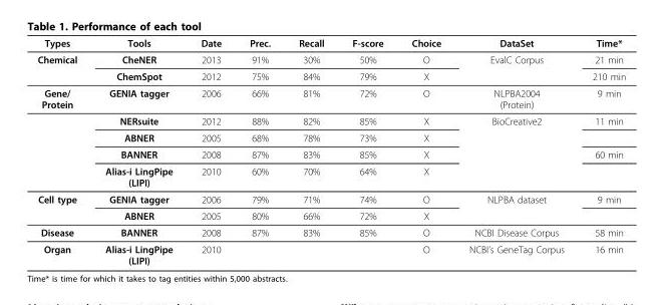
<table><thead><tr><td>Types</td><td>Tools</td><td>Date</td><td>Prec.</td><td>Recall</td><td>F-score</td><td>Choice</td><td>DataSet</td><td>Time*</td></tr></thead><tbody><tr><td rowspan="2">Chemical</td><td>CheNER</td><td>2013</td><td>91%</td><td>30%</td><td>50%</td><td>O</td><td>EvalC Corpus</td><td>21 min</td></tr><tr><td>ChemSpot</td><td>2012</td><td>75%</td><td>84%</td><td>79%</td><td>X</td><td></td><td>210 min</td></tr><tr><td rowspan="5">Gene/ Protein</td><td>GENIA tagger</td><td>2006</td><td>66%</td><td>81%</td><td>72%</td><td>O</td><td>NLPBA2004 (Protein)</td><td>9 min</td></tr><tr><td>NERsuite</td><td>2012</td><td>88%</td><td>82%</td><td>85%</td><td>X</td><td>BioCreative2</td><td>11 min</td></tr><tr><td>ABNER</td><td>2005</td><td>68%</td><td>78%</td><td>73%</td><td>X</td><td></td><td></td></tr><tr><td>BANNER</td><td>2008</td><td>87%</td><td>83%</td><td>85%</td><td>X</td><td></td><td>60 min</td></tr><tr><td>Alias-i LingPipe (LIPI)</td><td>2010</td><td>60%</td><td>70%</td><td>64%</td><td>X</td><td></td><td></td></tr><tr><td rowspan="2">Cell type</td><td>GENIA tagger</td><td>2006</td><td>79%</td><td>71%</td><td>74%</td><td>O</td><td>NLPBA dataset</td><td>9 min</td></tr><tr><td>ABNER</td><td>2005</td><td>80%</td><td>66%</td><td>72%</td><td>X</td><td></td><td></td></tr><tr><td>Disease</td><td>BANNER</td><td>2008</td><td>87%</td><td>83%</td><td>85%</td><td>O</td><td>NCBI Disease Corpus</td><td>58 min</td></tr><tr><td>Organ</td><td>Alias-i LingPipe (LIPI)</td><td>2010</td><td></td><td></td><td></td><td>O</td><td>NCBI’s GeneTag Corpus</td><td>16 min</td></tr></tbody></table>